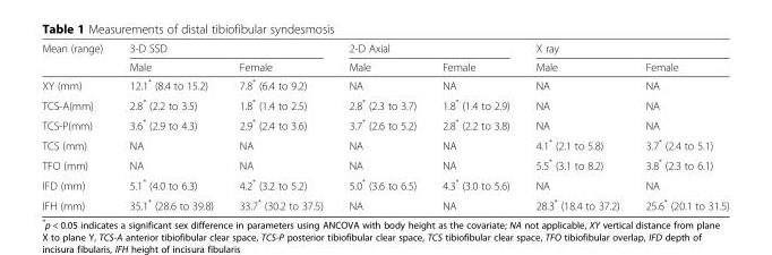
<table><thead><tr><td rowspan="2">Mean (range)</td><td colspan="2">3-D SSD</td><td colspan="2">2-D Axial</td><td colspan="2">X ray</td></tr><tr><td>Male</td><td>Female</td><td>Male</td><td>Female</td><td>Male</td><td>Female</td></tr></thead><tbody><tr><td>XY (mm)</td><td>12.1* (8.4 to 15.2)</td><td>7.8* (6.4 to 9.2)</td><td>NA</td><td>NA</td><td>NA</td><td>NA</td></tr><tr><td>TCS-A(mm)</td><td>2.8* (2.2 to 3.5)</td><td>1.8* (1.4 to 2.5)</td><td>2.8* (2.3 to 3.7)</td><td>1.8* (1.4 to 2.9)</td><td>NA</td><td>NA</td></tr><tr><td>TCS-P(mm)</td><td>3.6* (2.9 to 4.3)</td><td>2.9* (2.4 to 3.6)</td><td>3.7* (2.6 to 5.2)</td><td>2.8* (2.2 to 3.8)</td><td>NA</td><td>NA</td></tr><tr><td>TCS (mm)</td><td>NA</td><td>NA</td><td>NA</td><td>NA</td><td>4.1* (2.1 to 5.8)</td><td>3.7* (2.4 to 5.1)</td></tr><tr><td>TFO (mm)</td><td>NA</td><td>NA</td><td>NA</td><td>NA</td><td>5.5* (3.1 to 8.2)</td><td>3.8* (2.3 to 6.1)</td></tr><tr><td>IFD (mm)</td><td>5.1* (4.0 to 6.3)</td><td>4.2* (3.2 to 5.2)</td><td>5.0* (3.6 to 6.5)</td><td>4.3* (3.0 to 5.6)</td><td>NA</td><td>NA</td></tr><tr><td>IFH (mm)</td><td>35.1* (28.6 to 39.8)</td><td>33.7* (30.2 to 37.5)</td><td>NA</td><td>NA</td><td>28.3* (18.4 to 37.2)</td><td>25.6* (20.1 to 31.5)</td></tr></tbody></table>